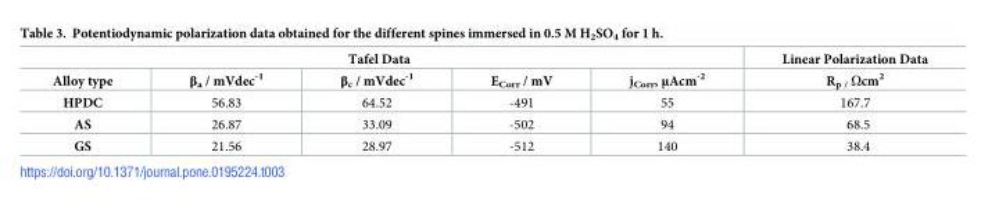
<table><thead><tr><td colspan="5">Tafel Data</td><td rowspan="2">Linear Polarization Data R<sub>p /</sub> Ωcm<sup>2</sup></td></tr><tr><td>Alloy type</td><td>β<sub>a</sub> / mVdec<sup>-1</sup></td><td>β<sub>c</sub> / mVdec<sup>-1</sup></td><td>E<sub>Corr</sub> / mV</td><td>j<sub>Corr</sub>, μAcm<sup>-2</sup></td></tr></thead><tbody><tr><td>HPDC</td><td>56.83</td><td>64.52</td><td>-491</td><td>55</td><td>167.7</td></tr><tr><td>AS</td><td>26.87</td><td>33.09</td><td>-502</td><td>94</td><td>68.5</td></tr><tr><td>GS</td><td>21.56</td><td>28.97</td><td>-512</td><td>140</td><td>38.4</td></tr></tbody></table>